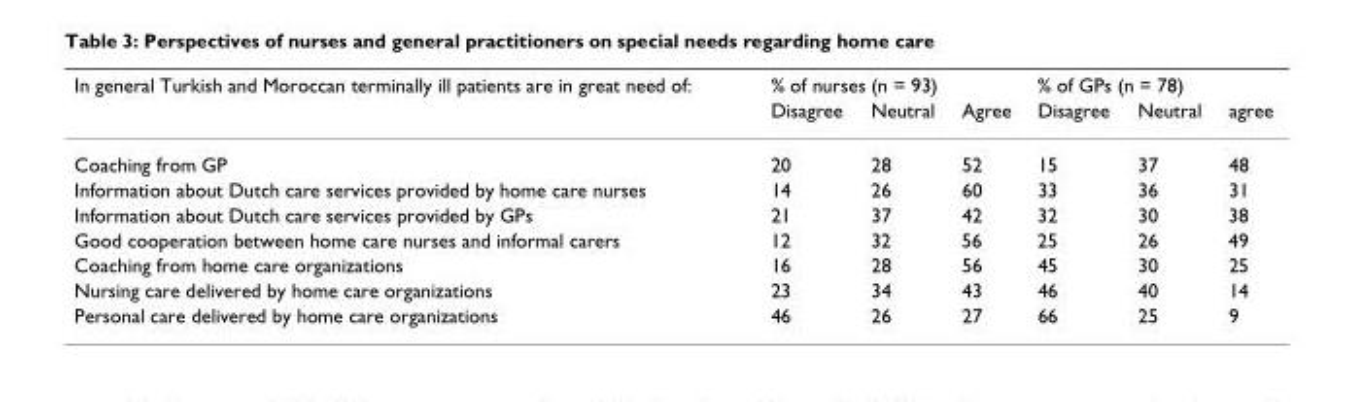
<table><thead><tr><td rowspan="2">In general Turkish and Moroccan terminally ill patients are in great need of:</td><td colspan="3">% of nurses (n = 93)</td><td colspan="3">% of GPs (n = 78)</td></tr><tr><td>Disagree</td><td>Neutral</td><td>Agree</td><td>Disagree</td><td>Neutral</td><td>agree</td></tr></thead><tbody><tr><td>Coaching from GP</td><td>20</td><td>28</td><td>52</td><td>15</td><td>37</td><td>48</td></tr><tr><td>Information about Dutch care services provided by home care nurses</td><td>14</td><td>26</td><td>60</td><td>33</td><td>36</td><td>31</td></tr><tr><td>Information about Dutch care services provided by GPs</td><td>21</td><td>37</td><td>42</td><td>32</td><td>30</td><td>38</td></tr><tr><td>Good cooperation between home care nurses and informal carers</td><td>12</td><td>32</td><td>56</td><td>25</td><td>26</td><td>49</td></tr><tr><td>Coaching from home care organizations</td><td>16</td><td>28</td><td>56</td><td>45</td><td>30</td><td>25</td></tr><tr><td>Nursing care delivered by home care organizations</td><td>23</td><td>34</td><td>43</td><td>46</td><td>40</td><td>14</td></tr><tr><td>Personal care delivered by home care organizations</td><td>46</td><td>26</td><td>27</td><td>66</td><td>25</td><td>9</td></tr></tbody></table>